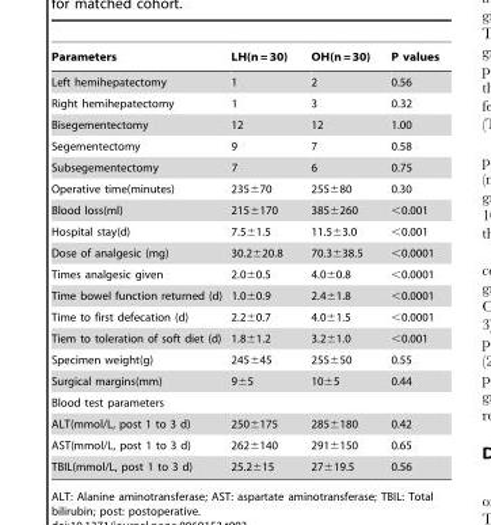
<table><thead><tr><td>Parameters</td><td>LH(n = 30)</td><td>OH(n = 30)</td><td>P values</td></tr></thead><tbody><tr><td>Left hemihepatectomy</td><td>1</td><td>2</td><td>0.56</td></tr><tr><td>Right hemihepatectomy</td><td>1</td><td>3</td><td>0.32</td></tr><tr><td>Bisegementectomy</td><td>12</td><td>12</td><td>1.00</td></tr><tr><td>Segementectomy</td><td>9</td><td>7</td><td>0.58</td></tr><tr><td>Subsegementectomy</td><td>7</td><td>6</td><td>0.75</td></tr><tr><td>Operative time(minutes)</td><td>235±70</td><td>255±80</td><td>0.30</td></tr><tr><td>Blood loss(ml)</td><td>215±170</td><td>385±260</td><td>&lt;0.001</td></tr><tr><td>Hospital stay(d)</td><td>7.5±1.5</td><td>11.5±3.0</td><td>&lt;0.001</td></tr><tr><td>Dose of analgesic (mg)</td><td>30.2±20.8</td><td>70.3±38.5</td><td>&lt;0.0001</td></tr><tr><td>Times analgesic given</td><td>2.0±0.5</td><td>4.0±0.8</td><td>&lt;0.0001</td></tr><tr><td>Time bowel function returned (d)</td><td>1.0±0.9</td><td>2.4±1.8</td><td>&lt;0.0001</td></tr><tr><td>Time to first defecation (d)</td><td>2.2±0.7</td><td>4.0±1.5</td><td>&lt;0.0001</td></tr><tr><td>Tiem to toleration of soft diet (d)</td><td>1.8±1.2</td><td>3.2±1.0</td><td>&lt;0.001</td></tr><tr><td>Specimen weight(g)</td><td>245±45</td><td>255±50</td><td>0.55</td></tr><tr><td>Surgical margins(mm)</td><td>9±5</td><td>10±5</td><td>0.44</td></tr><tr><td colspan="4">Blood test parameters</td></tr><tr><td>ALT(mmol/L, post 1 to 3 d)</td><td>250±175</td><td>285±180</td><td>0.42</td></tr><tr><td>AST(mmol/L, post 1 to 3 d)</td><td>262±140</td><td>291±150</td><td>0.65</td></tr><tr><td>TBIL(mmol/L, post 1 to 3 d)</td><td>25.2±15</td><td>27±19.5</td><td>0.56</td></tr></tbody></table>